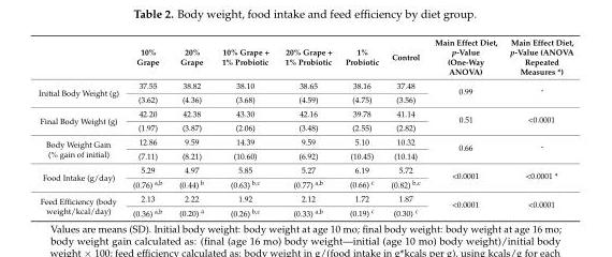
<table><thead><tr><td></td><td>10% Grape</td><td>20% Grape</td><td>10% Grape + 1% Probiotic</td><td>20% Grape + 1% Probiotic</td><td>1% Probiotic</td><td>Control</td><td>Main Effect Diet, p-Value (One-Way ANOVA)</td><td>Main Effect Diet, p-Value (ANOVA Repeated Measures *)</td></tr></thead><tbody><tr><td rowspan="2">Initial Body Weight (g)</td><td>37.55</td><td>38.82</td><td>38.10</td><td>38.65</td><td>38.16</td><td>37.48</td><td rowspan="2">0.99</td><td rowspan="2">-</td></tr><tr><td>(3.62)</td><td>(4.36)</td><td>(3.68)</td><td>(4.59)</td><td>(4.75)</td><td>(3.56)</td></tr><tr><td rowspan="2">Final Body Weight (g)</td><td>42.20</td><td>42.38</td><td>43.30</td><td>42.16</td><td>39.78</td><td>41.14</td><td rowspan="2">0.51</td><td rowspan="2">&lt;0.0001</td></tr><tr><td>(1.97)</td><td>(3.87)</td><td>(2.06)</td><td>(3.48)</td><td>(2.55)</td><td>(2.82)</td></tr><tr><td rowspan="2">Body Weight Gain (% gain of initial)</td><td>12.86</td><td>9.59</td><td>14.39</td><td>9.59</td><td>5.10</td><td>10.32</td><td rowspan="2">0.66</td><td rowspan="2">-</td></tr><tr><td>(7.11)</td><td>(8.21)</td><td>(10.60)</td><td>(6.92)</td><td>(10.45)</td><td>(10.14)</td></tr><tr><td rowspan="2">Food Intake (g/day)</td><td>5.29</td><td>4.97</td><td>5.85</td><td>5.27</td><td>6.19</td><td>5.72</td><td rowspan="2">&lt;0.0001</td><td rowspan="2">&lt;0.0001 *</td></tr><tr><td>(0.76) <sup>a,b</sup></td><td>(0.44) <sup>b</sup></td><td>(0.63) <sup>b,c</sup></td><td>(0.77) <sup>a,b</sup></td><td>(0.66) <sup>c</sup></td><td>(0.82) <sup>b,c</sup></td></tr><tr><td rowspan="2">Feed Efficiency (body weight/kcal/day)</td><td>2.13</td><td>2.22</td><td>1.92</td><td>2.12</td><td>1.72</td><td>1.87</td><td rowspan="2">&lt;0.0001</td><td rowspan="2">&lt;0.0001</td></tr><tr><td>(0.36) <sup>a,b</sup></td><td>(0.20) <sup>a</sup></td><td>(0.26) <sup>b,c</sup></td><td>(0.33) <sup>a,b</sup></td><td>(0.19) <sup>c</sup></td><td>(0.30) <sup>c</sup></td></tr></tbody></table>